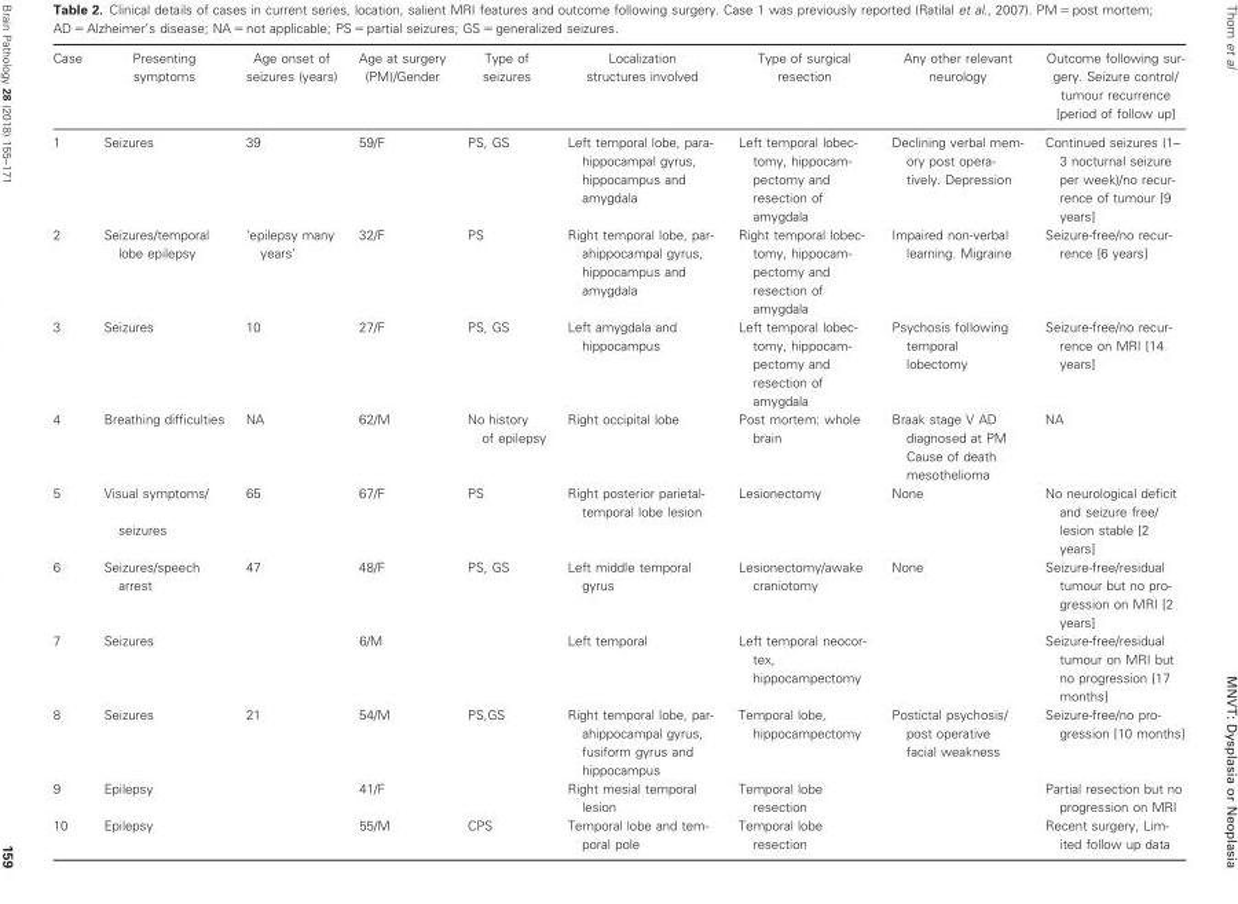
<table><thead><tr><td>Case</td><td>Presenting symptoms</td><td>Age onset of seizures (years)</td><td>Age at surgery (PM)/Gender</td><td>Type of seizures</td><td>Localization structures involved</td><td>Type of surgical resection</td><td>Any other relevant neurology</td><td>Outcome following sur- gery. Seizure control/ tumour recurrence [period of follow up]</td></tr></thead><tbody><tr><td>1</td><td>Seizures</td><td>39</td><td>59/F</td><td>PS, GS</td><td>Left temporal lobe, para- hippocampal gyrus, hippocampus and amygdala</td><td>Left temporal lobec- tomy, hippocam- pectomy and resection of amygdala</td><td>Declining verbal mem- ory post opera- tively. Depression</td><td>Continued seizures (1– 3 nocturnal seizure per week)/no recur- rence of tumour [9 years]</td></tr><tr><td>2</td><td>Seizures/temporal lobe epilepsy</td><td>‘epilepsy many years’</td><td>32/F</td><td>PS</td><td>Right temporal lobe, par- ahippocampal gyrus, hippocampus and amygdala</td><td>Right temporal lobec- tomy, hippocam- pectomy and resection of amygdala</td><td>Impaired non-verbal learning. Migraine</td><td>Seizure-free/no recur- rence [6 years]</td></tr><tr><td>3</td><td>Seizures</td><td>10</td><td>27/F</td><td>PS, GS</td><td>Left amygdala and hippocampus</td><td>Left temporal lobec- tomy, hippocam- pectomy and resection of amygdala</td><td>Psychosis following temporal lobectomy</td><td>Seizure-free/no recur- rence on MRI [14 years]</td></tr><tr><td>4</td><td>Breathing difficulties</td><td>NA</td><td>62/M</td><td>No history of epilepsy</td><td>Right occipital lobe</td><td>Post mortem: whole brain</td><td>Braak stage V AD diagnosed at PM Cause of death mesothelioma</td><td>NA</td></tr><tr><td>5</td><td>Visual symptoms/ seizures</td><td>65</td><td>67/F</td><td>PS</td><td>Right posterior parietal- temporal lobe lesion</td><td>Lesionectomy</td><td>None</td><td>No neurological deficit and seizure free/ lesion stable [2 years]</td></tr><tr><td>6</td><td>Seizures/speech arrest</td><td>47</td><td>48/F</td><td>PS, GS</td><td>Left middle temporal gyrus</td><td>Lesionectomy/awake craniotomy</td><td>None</td><td>Seizure-free/residual tumour but no pro- gression on MRI [2 years]</td></tr><tr><td>7</td><td>Seizures</td><td></td><td>6/M</td><td></td><td>Left temporal</td><td>Left temporal neocor- tex, hippocampectomy</td><td></td><td>Seizure-free/residual tumour on MRI but no progression [17 months]</td></tr><tr><td>8</td><td>Seizures</td><td>21</td><td>54/M</td><td>PS,GS</td><td>Right temporal lobe, par- ahippocampal gyrus, fusiform gyrus and hippocampus</td><td>Temporal lobe, hippocampectomy</td><td>Postictal psychosis/ post operative facial weakness</td><td>Seizure-free/no pro- gression [10 months]</td></tr><tr><td>9</td><td>Epilepsy</td><td></td><td>41/F</td><td></td><td>Right mesial temporal lesion</td><td>Temporal lobe resection</td><td></td><td>Partial resection but no progression on MRI</td></tr><tr><td>10</td><td>Epilepsy</td><td></td><td>55/M</td><td>CPS</td><td>Temporal lobe and tem- poral pole</td><td>Temporal lobe resection</td><td></td><td>Recent surgery, Lim- ited follow up data</td></tr></tbody></table>